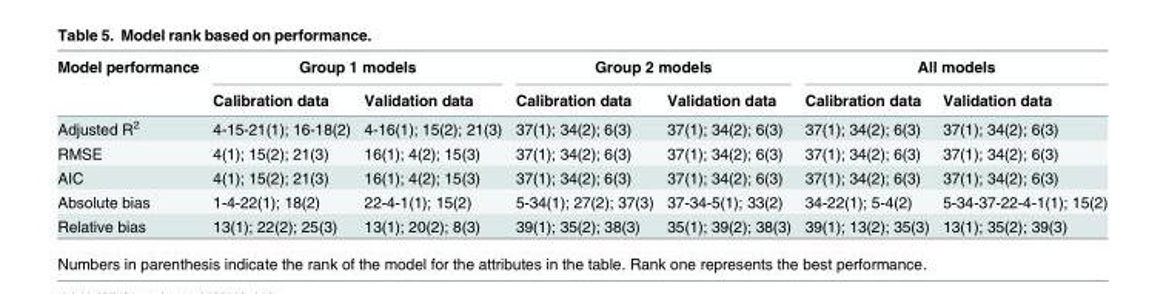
<table><thead><tr><td rowspan="2">Model performance</td><td colspan="2">Group 1 models</td><td colspan="2">Group 2 models</td><td colspan="2">All models</td></tr><tr><td>Calibration data</td><td>Validation data</td><td>Calibration data</td><td>Validation data</td><td>Calibration data</td><td>Validation data</td></tr></thead><tbody><tr><td>Adjusted R<sup>2</sup></td><td>4-15-21(1); 16-18(2)</td><td>4-16(1); 15(2); 21(3)</td><td>37(1); 34(2); 6(3)</td><td>37(1); 34(2); 6(3)</td><td>37(1); 34(2); 6(3)</td><td>37(1); 34(2); 6(3)</td></tr><tr><td>RMSE</td><td>4(1); 15(2); 21(3)</td><td>16(1); 4(2); 15(3)</td><td>37(1); 34(2); 6(3)</td><td>37(1); 34(2); 6(3)</td><td>37(1); 34(2); 6(3)</td><td>37(1); 34(2); 6(3)</td></tr><tr><td>AIC</td><td>4(1); 15(2); 21(3)</td><td>16(1); 4(2); 15(3)</td><td>37(1); 34(2); 6(3)</td><td>37(1); 34(2); 6(3)</td><td>37(1); 34(2); 6(3)</td><td>37(1); 34(2); 6(3)</td></tr><tr><td>Absolute bias</td><td>1-4-22(1); 18(2)</td><td>22-4-1(1); 15(2)</td><td>5-34(1); 27(2); 37(3)</td><td>37-34-5(1); 33(2)</td><td>34-22(1); 5-4(2)</td><td>5-34-37-22-4-1(1); 15(2)</td></tr><tr><td>Relative bias</td><td>13(1); 22(2); 25(3)</td><td>13(1); 20(2); 8(3)</td><td>39(1); 35(2); 38(3)</td><td>35(1); 39(2); 38(3)</td><td>39(1); 13(2); 35(3)</td><td>13(1); 35(2); 39(3)</td></tr></tbody></table>